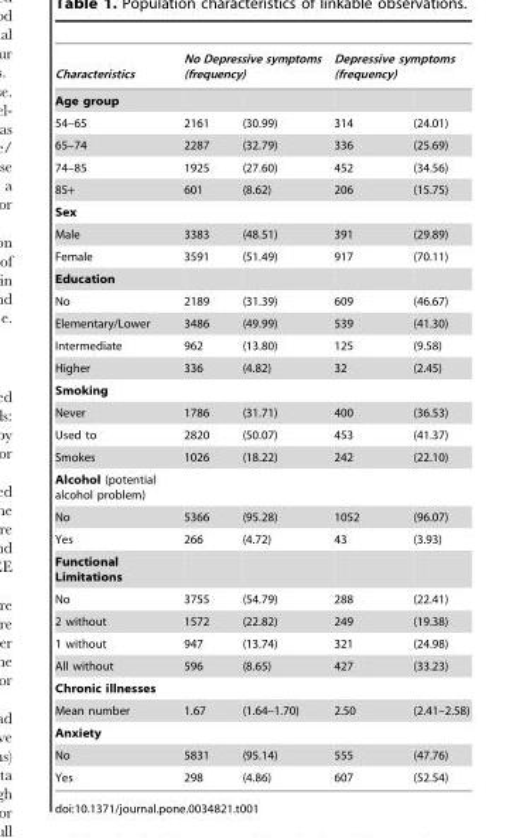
<table><thead><tr><td rowspan="2">Characteristics Age group</td><td colspan="2">No Depressive symptoms (frequency)</td><td colspan="2">Depressive symptoms (frequency)</td></tr><tr><td></td><td></td><td></td><td></td></tr></thead><tbody><tr><td>54–65</td><td>2161</td><td>(30.99)</td><td>314</td><td>(24.01)</td></tr><tr><td>65–74</td><td>2287</td><td>(32.79)</td><td>336</td><td>(25.69)</td></tr><tr><td>74–85</td><td>1925</td><td>(27.60)</td><td>452</td><td>(34.56)</td></tr><tr><td>85+</td><td>601</td><td>(8.62)</td><td>206</td><td>(15.75)</td></tr><tr><td colspan="5">Sex</td></tr><tr><td>Male</td><td>3383</td><td>(48.51)</td><td>391</td><td>(29.89)</td></tr><tr><td>Female</td><td>3591</td><td>(51.49)</td><td>917</td><td>(70.11)</td></tr><tr><td colspan="5">Education</td></tr><tr><td>No</td><td>2189</td><td>(31.39)</td><td>609</td><td>(46.67)</td></tr><tr><td>Elementary/Lower</td><td>3486</td><td>(49.99)</td><td>539</td><td>(41.30)</td></tr><tr><td>Intermediate</td><td>962</td><td>(13.80)</td><td>125</td><td>(9.58)</td></tr><tr><td>Higher</td><td>336</td><td>(4.82)</td><td>32</td><td>(2.45)</td></tr><tr><td colspan="5">Smoking</td></tr><tr><td>Never</td><td>1786</td><td>(31.71)</td><td>400</td><td>(36.53)</td></tr><tr><td>Used to</td><td>2820</td><td>(50.07)</td><td>453</td><td>(41.37)</td></tr><tr><td>Smokes</td><td>1026</td><td>(18.22)</td><td>242</td><td>(22.10)</td></tr><tr><td colspan="5">Alcohol (potential alcohol problem)</td></tr><tr><td>No</td><td>5366</td><td>(95.28)</td><td>1052</td><td>(96.07)</td></tr><tr><td>Yes</td><td>266</td><td>(4.72)</td><td>43</td><td>(3.93)</td></tr><tr><td colspan="5">Functional Limitations</td></tr><tr><td>No</td><td>3755</td><td>(54.79)</td><td>288</td><td>(22.41)</td></tr><tr><td>2 without</td><td>1572</td><td>(22.82)</td><td>249</td><td>(19.38)</td></tr><tr><td>1 without</td><td>947</td><td>(13.74)</td><td>321</td><td>(24.98)</td></tr><tr><td>All without</td><td>596</td><td>(8.65)</td><td>427</td><td>(33.23)</td></tr><tr><td colspan="5">Chronic illnesses</td></tr><tr><td>Mean number</td><td>1.67</td><td>(1.64–1.70)</td><td>2.50</td><td>(2.41–2.58)</td></tr><tr><td colspan="5">Anxiety</td></tr><tr><td>No</td><td>5831</td><td>(95.14)</td><td>555</td><td>(47.76)</td></tr><tr><td>Yes</td><td>298</td><td>(4.86)</td><td>607</td><td>(52.54)</td></tr></tbody></table>